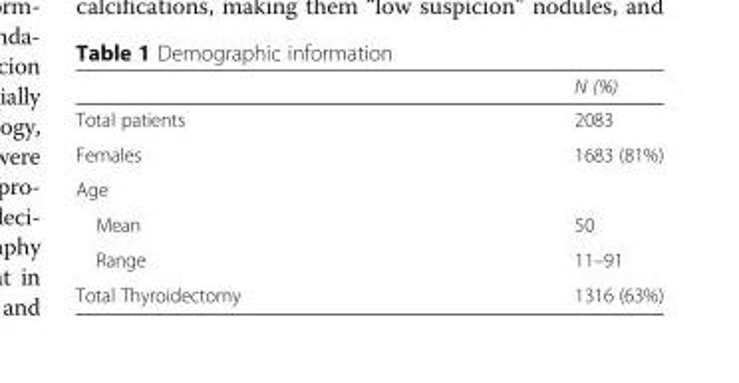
<table><thead><tr><td></td><td>N (%)</td></tr></thead><tbody><tr><td>Total patients</td><td>2083</td></tr><tr><td>Females</td><td>1683 (81%)</td></tr><tr><td colspan="2">Age</td></tr><tr><td>Mean</td><td>50</td></tr><tr><td>Range</td><td>11–91</td></tr><tr><td>Total Thyroidectomy</td><td>1316 (63%)</td></tr></tbody></table>